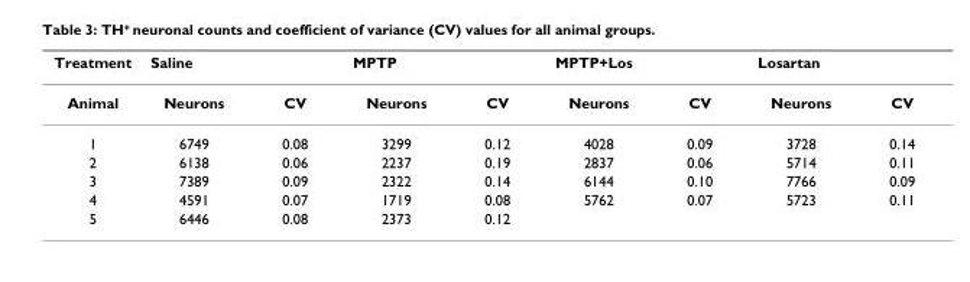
<table><thead><tr><td rowspan="2">Treatment Animal</td><td colspan="2">Saline</td><td colspan="2">MPTP</td><td colspan="2">MPTP+Los</td><td colspan="2">Losartan</td></tr><tr><td>Neurons</td><td>CV</td><td>Neurons</td><td>CV</td><td>Neurons</td><td>CV</td><td>Neurons</td><td>CV</td></tr></thead><tbody><tr><td>1</td><td>6749</td><td>0.08</td><td>3299</td><td>0.12</td><td>4028</td><td>0.09</td><td>3728</td><td>0.14</td></tr><tr><td>2</td><td>6138</td><td>0.06</td><td>2237</td><td>0.19</td><td>2837</td><td>0.06</td><td>5714</td><td>0.11</td></tr><tr><td>3</td><td>7389</td><td>0.09</td><td>2322</td><td>0.14</td><td>6144</td><td>0.10</td><td>7766</td><td>0.09</td></tr><tr><td>4</td><td>4591</td><td>0.07</td><td>1719</td><td>0.08</td><td>5762</td><td>0.07</td><td>5723</td><td>0.11</td></tr><tr><td>5</td><td>6446</td><td>0.08</td><td>2373</td><td>0.12</td><td></td><td></td><td></td><td></td></tr></tbody></table>